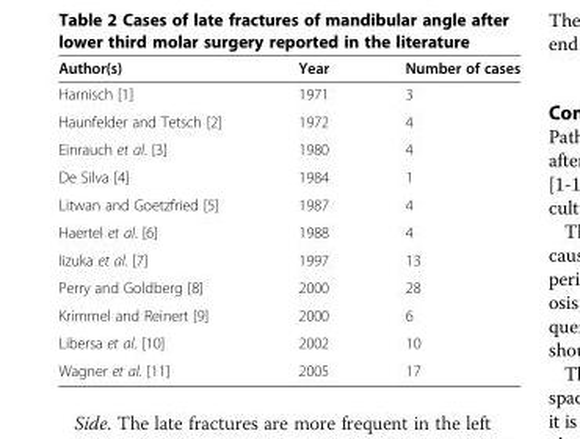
<table><thead><tr><td>Author(s)</td><td>Year</td><td>Number of cases</td></tr></thead><tbody><tr><td>Harnisch [1]</td><td>1971</td><td>3</td></tr><tr><td>Haunfelder and Tetsch [2]</td><td>1972</td><td>4</td></tr><tr><td>Einrauch et al. [3]</td><td>1980</td><td>4</td></tr><tr><td>De Silva [4]</td><td>1984</td><td>1</td></tr><tr><td>Litwan and Goetzfried [5]</td><td>1987</td><td>4</td></tr><tr><td>Haertel et al. [6]</td><td>1988</td><td>4</td></tr><tr><td>Iizuka et al. [7]</td><td>1997</td><td>13</td></tr><tr><td>Perry and Goldberg [8]</td><td>2000</td><td>28</td></tr><tr><td>Krimmel and Reinert [9]</td><td>2000</td><td>6</td></tr><tr><td>Libersa et al. [10]</td><td>2002</td><td>10</td></tr><tr><td>Wagner et al. [11]</td><td>2005</td><td>17</td></tr></tbody></table>